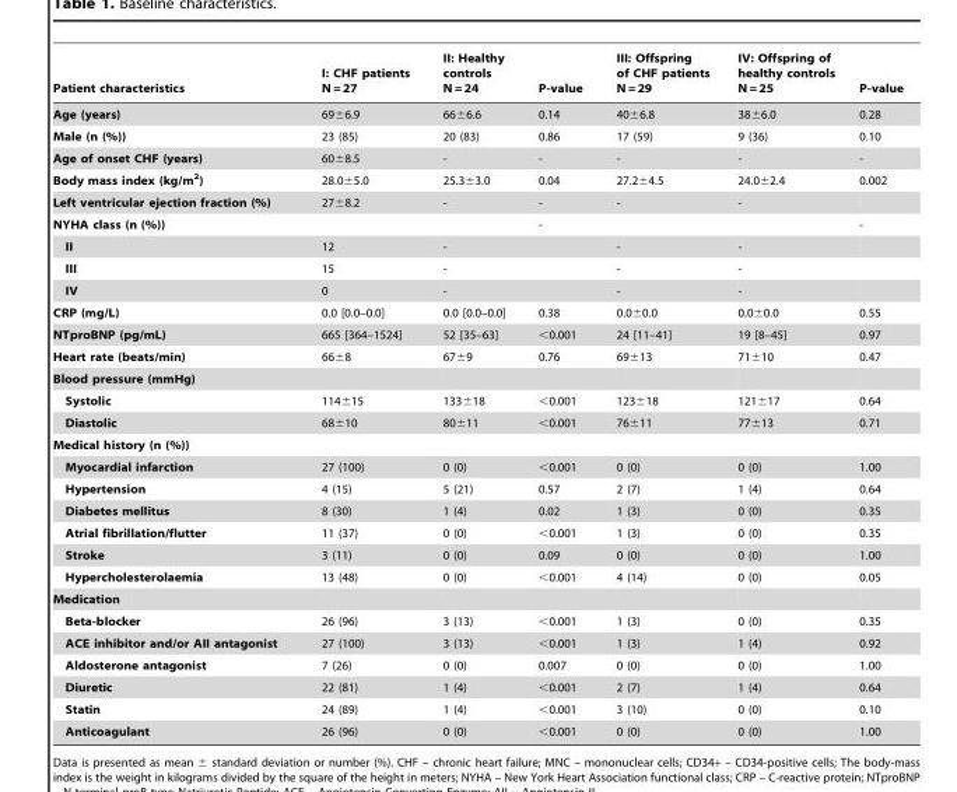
<table><thead><tr><td>Patient characteristics</td><td>I: CHF patients N = 27</td><td>II: Healthy controls N = 24</td><td>P-value</td><td>III: Offspring of CHF patients N = 29</td><td>IV: Offspring of healthy controls N = 25</td><td>P-value</td></tr></thead><tbody><tr><td>Age (years)</td><td>69±6.9</td><td>66±6.6</td><td>0.14</td><td>40±6.8</td><td>38±6.0</td><td>0.28</td></tr><tr><td>Male (n (%))</td><td>23 (85)</td><td>20 (83)</td><td>0.86</td><td>17 (59)</td><td>9 (36)</td><td>0.10</td></tr><tr><td>Age of onset CHF (years)</td><td>60±8.5</td><td>-</td><td>-</td><td>-</td><td>-</td><td>-</td></tr><tr><td>Body mass index (kg/m<sup>2</sup>)</td><td>28.0±5.0</td><td>25.3±3.0</td><td>0.04</td><td>27.2±4.5</td><td>24.0±2.4</td><td>0.002</td></tr><tr><td>Left ventricular ejection fraction (%)</td><td>27±8.2</td><td>-</td><td>-</td><td>-</td><td>-</td><td></td></tr><tr><td>NYHA class (n (%))</td><td></td><td></td><td>-</td><td></td><td></td><td>-</td></tr><tr><td>II</td><td>12</td><td>-</td><td></td><td>-</td><td>-</td><td></td></tr><tr><td>III</td><td>15</td><td>-</td><td></td><td>-</td><td>-</td><td></td></tr><tr><td>IV</td><td>0</td><td>-</td><td></td><td>-</td><td>-</td><td></td></tr><tr><td>CRP (mg/L)</td><td>0.0 [0.0–0.0]</td><td>0.0 [0.0–0.0]</td><td>0.38</td><td>0.0±0.0</td><td>0.0±0.0</td><td>0.55</td></tr><tr><td>NTproBNP (pg/mL)</td><td>665 [364–1524]</td><td>52 [35–63]</td><td>&lt;0.001</td><td>24 [11–41]</td><td>19 [8–45]</td><td>0.97</td></tr><tr><td>Heart rate (beats/min)</td><td>66±8</td><td>67±9</td><td>0.76</td><td>69±13</td><td>71±10</td><td>0.47</td></tr><tr><td colspan="7">Blood pressure (mmHg)</td></tr><tr><td>Systolic</td><td>114±15</td><td>133±18</td><td>&lt;0.001</td><td>123±18</td><td>121±17</td><td>0.64</td></tr><tr><td>Diastolic</td><td>68±10</td><td>80±11</td><td>&lt;0.001</td><td>76±11</td><td>77±13</td><td>0.71</td></tr><tr><td colspan="7">Medical history (n (%))</td></tr><tr><td>Myocardial infarction</td><td>27 (100)</td><td>0 (0)</td><td>&lt;0.001</td><td>0 (0)</td><td>0 (0)</td><td>1.00</td></tr><tr><td>Hypertension</td><td>4 (15)</td><td>5 (21)</td><td>0.57</td><td>2 (7)</td><td>1 (4)</td><td>0.64</td></tr><tr><td>Diabetes mellitus</td><td>8 (30)</td><td>1 (4)</td><td>0.02</td><td>1 (3)</td><td>0 (0)</td><td>0.35</td></tr><tr><td>Atrial fibrillation/flutter</td><td>11 (37)</td><td>0 (0)</td><td>&lt;0.001</td><td>1 (3)</td><td>0 (0)</td><td>0.35</td></tr><tr><td>Stroke</td><td>3 (11)</td><td>0 (0)</td><td>0.09</td><td>0 (0)</td><td>0 (0)</td><td>1.00</td></tr><tr><td>Hypercholesterolaemia</td><td>13 (48)</td><td>0 (0)</td><td>&lt;0.001</td><td>4 (14)</td><td>0 (0)</td><td>0.05</td></tr><tr><td colspan="7">Medication</td></tr><tr><td>Beta-blocker</td><td>26 (96)</td><td>3 (13)</td><td>&lt;0.001</td><td>1 (3)</td><td>0 (0)</td><td>0.35</td></tr><tr><td>ACE inhibitor and/or AII antagonist</td><td>27 (100)</td><td>3 (13)</td><td>&lt;0.001</td><td>1 (3)</td><td>1 (4)</td><td>0.92</td></tr><tr><td>Aldosterone antagonist</td><td>7 (26)</td><td>0 (0)</td><td>0.007</td><td>0 (0)</td><td>0 (0)</td><td>1.00</td></tr><tr><td>Diuretic</td><td>22 (81)</td><td>1 (4)</td><td>&lt;0.001</td><td>2 (7)</td><td>1 (4)</td><td>0.64</td></tr><tr><td>Statin</td><td>24 (89)</td><td>1 (4)</td><td>&lt;0.001</td><td>3 (10)</td><td>0 (0)</td><td>0.10</td></tr><tr><td>Anticoagulant</td><td>26 (96)</td><td>0 (0)</td><td>&lt;0.001</td><td>0 (0)</td><td>0 (0)</td><td>1.00</td></tr></tbody></table>